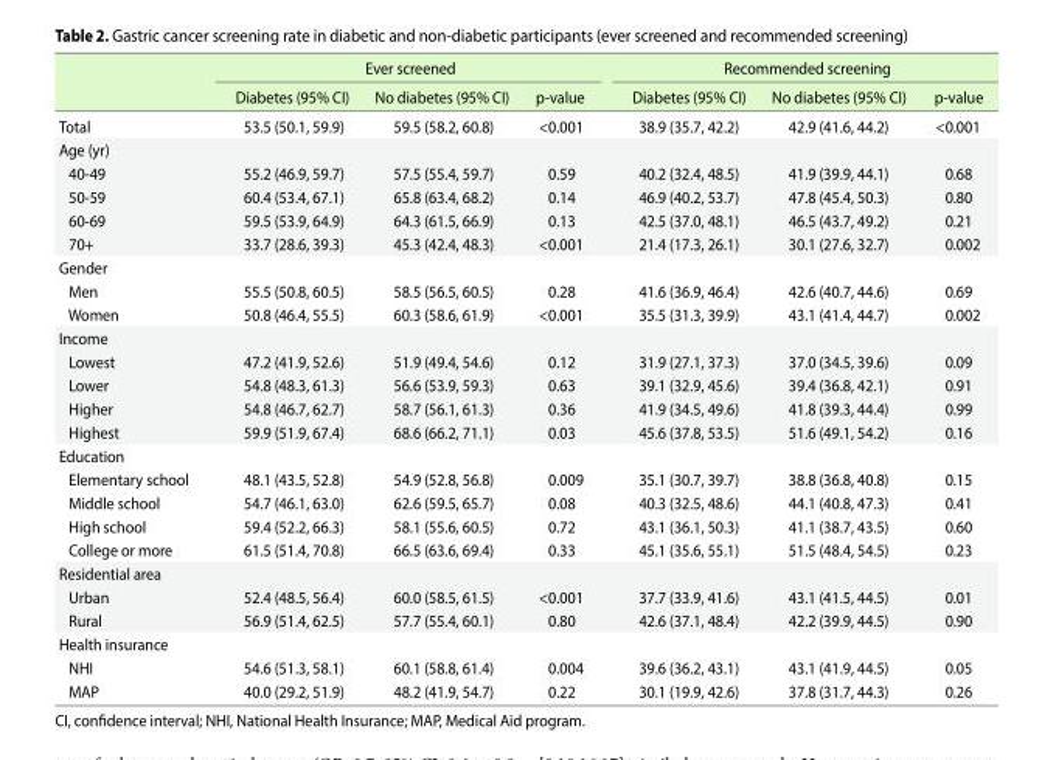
<table><thead><tr><td rowspan="2"></td><td colspan="3">Ever screened</td><td colspan="3">Recommended screening</td></tr><tr><td>Diabetes (95% CI)</td><td>No diabetes (95% CI)</td><td>p-value</td><td>Diabetes (95% CI)</td><td>No diabetes (95% CI)</td><td>p-value</td></tr></thead><tbody><tr><td>Total</td><td>53.5 (50.1, 59.9)</td><td>59.5 (58.2, 60.8)</td><td>&lt;0.001</td><td>38.9 (35.7, 42.2)</td><td>42.9 (41.6, 44.2)</td><td>&lt;0.001</td></tr><tr><td colspan="7">Age (yr)</td></tr><tr><td>40-49</td><td>55.2 (46.9, 59.7)</td><td>57.5 (55.4, 59.7)</td><td>0.59</td><td>40.2 (32.4, 48.5)</td><td>41.9 (39.9, 44.1)</td><td>0.68</td></tr><tr><td>50-59</td><td>60.4 (53.4, 67.1)</td><td>65.8 (63.4, 68.2)</td><td>0.14</td><td>46.9 (40.2, 53.7)</td><td>47.8 (45.4, 50.3)</td><td>0.80</td></tr><tr><td>60-69</td><td>59.5 (53.9, 64.9)</td><td>64.3 (61.5, 66.9)</td><td>0.13</td><td>42.5 (37.0, 48.1)</td><td>46.5 (43.7, 49.2)</td><td>0.21</td></tr><tr><td>70+</td><td>33.7 (28.6, 39.3)</td><td>45.3 (42.4, 48.3)</td><td>&lt;0.001</td><td>21.4 (17.3, 26.1)</td><td>30.1 (27.6, 32.7)</td><td>0.002</td></tr><tr><td colspan="7">Gender</td></tr><tr><td>Men</td><td>55.5 (50.8, 60.5)</td><td>58.5 (56.5, 60.5)</td><td>0.28</td><td>41.6 (36.9, 46.4)</td><td>42.6 (40.7, 44.6)</td><td>0.69</td></tr><tr><td>Women</td><td>50.8 (46.4, 55.5)</td><td>60.3 (58.6, 61.9)</td><td>&lt;0.001</td><td>35.5 (31.3, 39.9)</td><td>43.1 (41.4, 44.7)</td><td>0.002</td></tr><tr><td colspan="7">Income</td></tr><tr><td>Lowest</td><td>47.2 (41.9, 52.6)</td><td>51.9 (49.4, 54.6)</td><td>0.12</td><td>31.9 (27.1, 37.3)</td><td>37.0 (34.5, 39.6)</td><td>0.09</td></tr><tr><td>Lower</td><td>54.8 (48.3, 61.3)</td><td>56.6 (53.9, 59.3)</td><td>0.63</td><td>39.1 (32.9, 45.6)</td><td>39.4 (36.8, 42.1)</td><td>0.91</td></tr><tr><td>Higher</td><td>54.8 (46.7, 62.7)</td><td>58.7 (56.1, 61.3)</td><td>0.36</td><td>41.9 (34.5, 49.6)</td><td>41.8 (39.3, 44.4)</td><td>0.99</td></tr><tr><td>Highest</td><td>59.9 (51.9, 67.4)</td><td>68.6 (66.2, 71.1)</td><td>0.03</td><td>45.6 (37.8, 53.5)</td><td>51.6 (49.1, 54.2)</td><td>0.16</td></tr><tr><td colspan="7">Education</td></tr><tr><td>Elementary school</td><td>48.1 (43.5, 52.8)</td><td>54.9 (52.8, 56.8)</td><td>0.009</td><td>35.1 (30.7, 39.7)</td><td>38.8 (36.8, 40.8)</td><td>0.15</td></tr><tr><td>Middle school</td><td>54.7 (46.1, 63.0)</td><td>62.6 (59.5, 65.7)</td><td>0.08</td><td>40.3 (32.5, 48.6)</td><td>44.1 (40.8, 47.3)</td><td>0.41</td></tr><tr><td>High school</td><td>59.4 (52.2, 66.3)</td><td>58.1 (55.6, 60.5)</td><td>0.72</td><td>43.1 (36.1, 50.3)</td><td>41.1 (38.7, 43.5)</td><td>0.60</td></tr><tr><td>College or more</td><td>61.5 (51.4, 70.8)</td><td>66.5 (63.6, 69.4)</td><td>0.33</td><td>45.1 (35.6, 55.1)</td><td>51.5 (48.4, 54.5)</td><td>0.23</td></tr><tr><td colspan="7">Residential area</td></tr><tr><td>Urban</td><td>52.4 (48.5, 56.4)</td><td>60.0 (58.5, 61.5)</td><td>&lt;0.001</td><td>37.7 (33.9, 41.6)</td><td>43.1 (41.5, 44.5)</td><td>0.01</td></tr><tr><td>Rural</td><td>56.9 (51.4, 62.5)</td><td>57.7 (55.4, 60.1)</td><td>0.80</td><td>42.6 (37.1, 48.4)</td><td>42.2 (39.9, 44.5)</td><td>0.90</td></tr><tr><td colspan="7">Health insurance</td></tr><tr><td>NHI</td><td>54.6 (51.3, 58.1)</td><td>60.1 (58.8, 61.4)</td><td>0.004</td><td>39.6 (36.2, 43.1)</td><td>43.1 (41.9, 44.5)</td><td>0.05</td></tr><tr><td>MAP</td><td>40.0 (29.2, 51.9)</td><td>48.2 (41.9, 54.7)</td><td>0.22</td><td>30.1 (19.9, 42.6)</td><td>37.8 (31.7, 44.3)</td><td>0.26</td></tr></tbody></table>